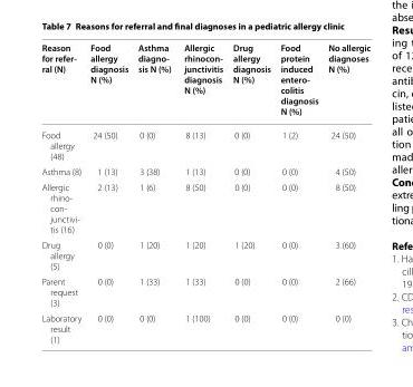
<table><thead><tr><td>Reason for refer‑ ral (N)</td><td>Food allergy diagnosis N (%)</td><td>Asthma diagno‑ sis N (%)</td><td>Allergic rhinocon‑ junctivitis diagnosis N (%)</td><td>Drug allergy diagnosis N (%)</td><td>Food protein induced entero‑ colitis diagnosis N (%)</td><td>No allergic diagnoses N (%)</td></tr></thead><tbody><tr><td>Food allergy (48)</td><td>24 (50)</td><td>0 (0)</td><td>8 (13)</td><td>0 (0)</td><td>1 (2)</td><td>24 (50)</td></tr><tr><td>Asthma (8)</td><td>1 (13)</td><td>3 (38)</td><td>1 (13)</td><td>0 (0)</td><td>0 (0)</td><td>4 (50)</td></tr><tr><td>Allergic rhino‑ con‑ junctivi‑ tis (16)</td><td>2 (13)</td><td>1 (6)</td><td>8 (50)</td><td>0 (0)</td><td>0 (0)</td><td>8 (50)</td></tr><tr><td>Drug allergy (5)</td><td>0 (0)</td><td>1 (20)</td><td>1 (20)</td><td>1 (20)</td><td>0 (0)</td><td>3 (60)</td></tr><tr><td>Parent request (3)</td><td>0 (0)</td><td>1 (33)</td><td>1 (33)</td><td>0 (0)</td><td>0 (0)</td><td>2 (66)</td></tr><tr><td>Laboratory result (1)</td><td>0 (0)</td><td>0 (0)</td><td>1 (100)</td><td>0 (0)</td><td>0 (0)</td><td>0 (0)</td></tr></tbody></table>